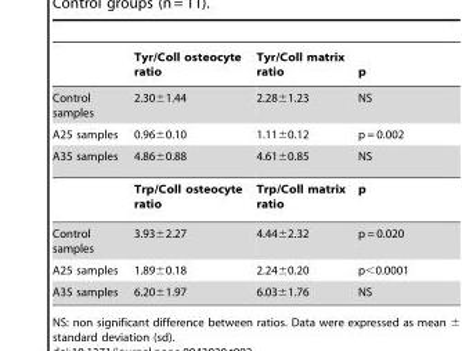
<table><thead><tr><td></td><td>Tyr/Coll osteocyte ratio</td><td>Tyr/Coll matrix ratio</td><td>p</td></tr></thead><tbody><tr><td>Control samples</td><td>2.30±1.44</td><td>2.28±1.23</td><td>NS</td></tr><tr><td>A25 samples</td><td>0.96±0.10</td><td>1.11±0.12</td><td>p = 0.002</td></tr><tr><td rowspan="2">A35 samples</td><td>4.86±0.88</td><td>4.61±0.85</td><td>NS</td></tr><tr><td>Trp/Coll osteocyte ratio</td><td>Trp/Coll matrix ratio</td><td>p</td></tr><tr><td>Control samples</td><td>3.93±2.27</td><td>4.44±2.32</td><td>p = 0.020</td></tr><tr><td>A25 samples</td><td>1.89±0.18</td><td>2.24±0.20</td><td>p&lt;0.0001</td></tr><tr><td>A35 samples</td><td>6.20±1.97</td><td>6.03±1.76</td><td>NS</td></tr></tbody></table>